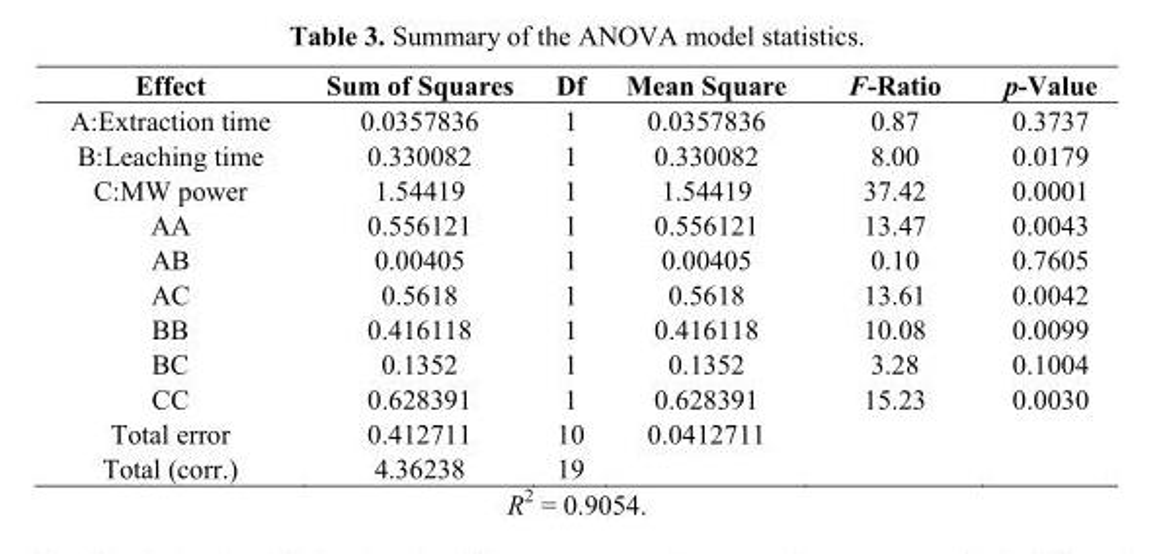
<table><thead><tr><td>Effect</td><td>Sum of Squares</td><td>Df</td><td>Mean Square</td><td>F-Ratio</td><td>p-Value</td></tr></thead><tbody><tr><td>A:Extraction time</td><td>0.0357836</td><td>1</td><td>0.0357836</td><td>0.87</td><td>0.3737</td></tr><tr><td>B:Leaching time</td><td>0.330082</td><td>1</td><td>0.330082</td><td>8.00</td><td>0.0179</td></tr><tr><td>C:MW power</td><td>1.54419</td><td>1</td><td>1.54419</td><td>37.42</td><td>0.0001</td></tr><tr><td>AA</td><td>0.556121</td><td>1</td><td>0.556121</td><td>13.47</td><td>0.0043</td></tr><tr><td>AB</td><td>0.00405</td><td>1</td><td>0.00405</td><td>0.10</td><td>0.7605</td></tr><tr><td>AC</td><td>0.5618</td><td>1</td><td>0.5618</td><td>13.61</td><td>0.0042</td></tr><tr><td>BB</td><td>0.416118</td><td>1</td><td>0.416118</td><td>10.08</td><td>0.0099</td></tr><tr><td>BC</td><td>0.1352</td><td>1</td><td>0.1352</td><td>3.28</td><td>0.1004</td></tr><tr><td>CC</td><td>0.628391</td><td>1</td><td>0.628391</td><td>15.23</td><td>0.0030</td></tr><tr><td>Total error</td><td>0.412711</td><td>10</td><td>0.0412711</td><td></td><td></td></tr><tr><td>Total (corr.)</td><td>4.36238</td><td>19</td><td></td><td></td><td></td></tr></tbody></table>